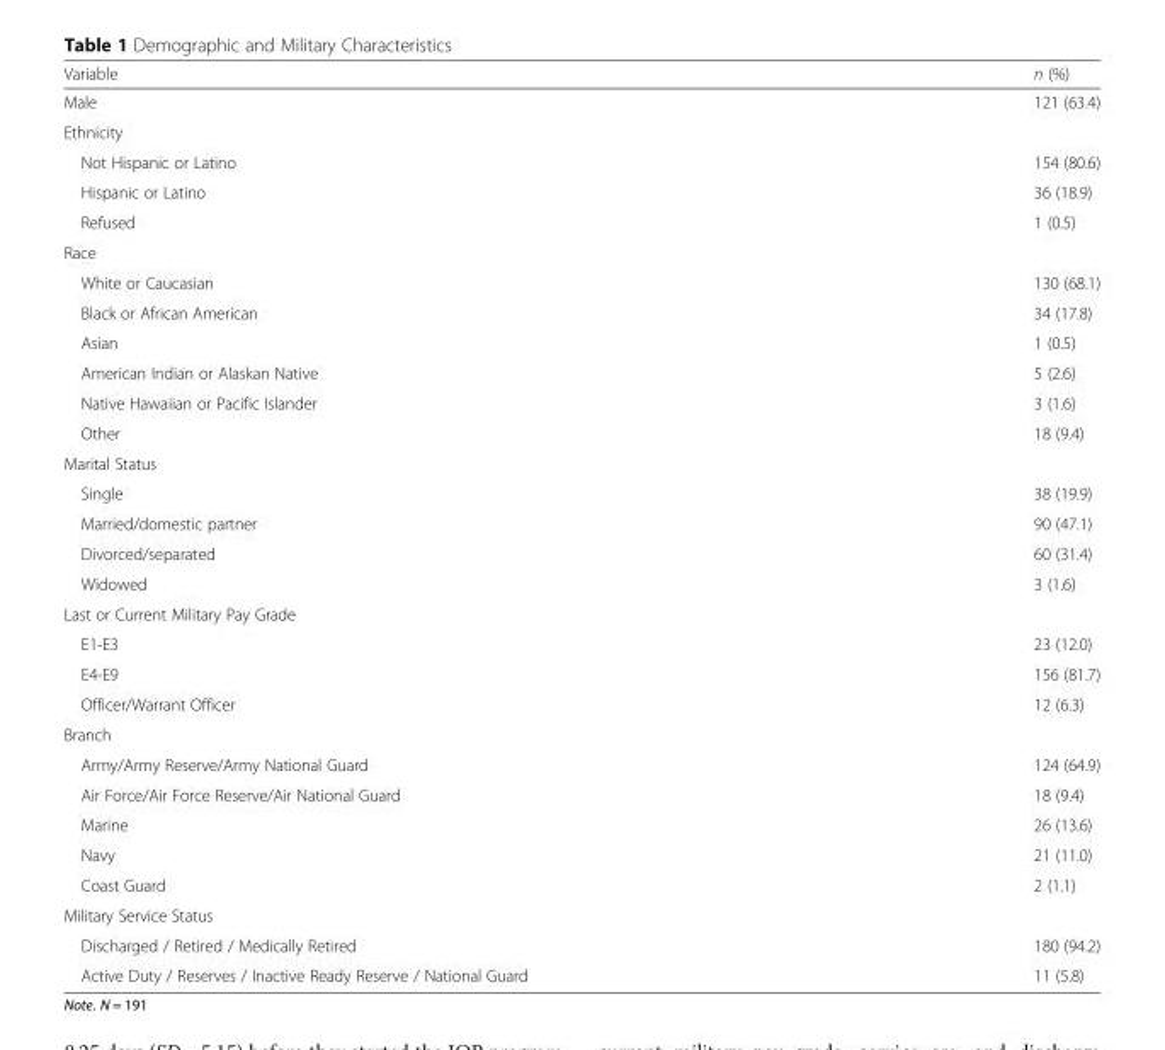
<table><thead><tr><td>Variable</td><td>n (%)</td></tr></thead><tbody><tr><td>Male</td><td>121 (63.4)</td></tr><tr><td colspan="2">Ethnicity</td></tr><tr><td>Not Hispanic or Latino</td><td>154 (80.6)</td></tr><tr><td>Hispanic or Latino</td><td>36 (18.9)</td></tr><tr><td>Refused</td><td>1 (0.5)</td></tr><tr><td colspan="2">Race</td></tr><tr><td>White or Caucasian</td><td>130 (68.1)</td></tr><tr><td>Black or African American</td><td>34 (17.8)</td></tr><tr><td>Asian</td><td>1 (0.5)</td></tr><tr><td>American Indian or Alaskan Native</td><td>5 (2.6)</td></tr><tr><td>Native Hawaiian or Pacific Islander</td><td>3 (1.6)</td></tr><tr><td>Other</td><td>18 (9.4)</td></tr><tr><td colspan="2">Marital Status</td></tr><tr><td>Single</td><td>38 (19.9)</td></tr><tr><td>Married/domestic partner</td><td>90 (47.1)</td></tr><tr><td>Divorced/separated</td><td>60 (31.4)</td></tr><tr><td>Widowed</td><td>3 (1.6)</td></tr><tr><td colspan="2">Last or Current Military Pay Grade</td></tr><tr><td>E1-E3</td><td>23 (12.0)</td></tr><tr><td>E4-E9</td><td>156 (81.7)</td></tr><tr><td>Officer/Warrant Officer</td><td>12 (6.3)</td></tr><tr><td colspan="2">Branch</td></tr><tr><td>Army/Army Reserve/Army National Guard</td><td>124 (64.9)</td></tr><tr><td>Air Force/Air Force Reserve/Air National Guard</td><td>18 (9.4)</td></tr><tr><td>Marine</td><td>26 (13.6)</td></tr><tr><td>Navy</td><td>21 (11.0)</td></tr><tr><td>Coast Guard</td><td>2 (1.1)</td></tr><tr><td colspan="2">Military Service Status</td></tr><tr><td>Discharged / Retired / Medically Retired</td><td>180 (94.2)</td></tr><tr><td>Active Duty / Reserves / Inactive Ready Reserve / National Guard</td><td>11 (5.8)</td></tr></tbody></table>